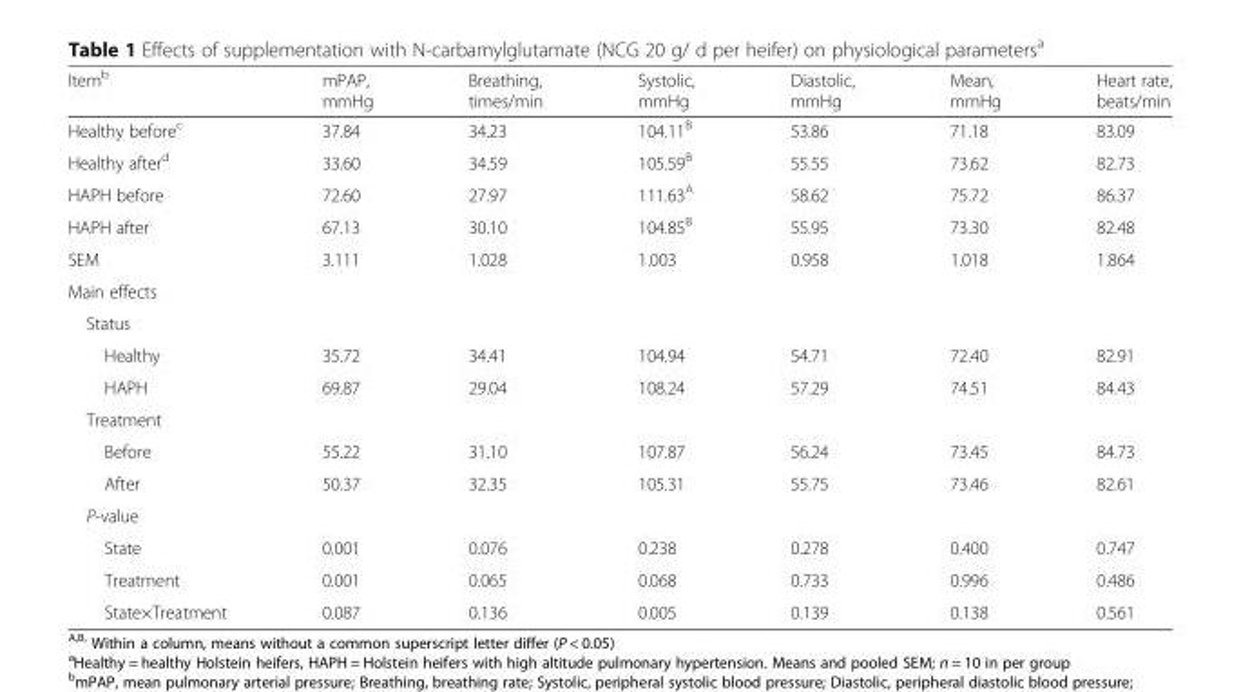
<table><thead><tr><td>Item<sup>b</sup></td><td>mPAP, mmHg</td><td>Breathing, times/min</td><td>Systolic, mmHg</td><td>Diastolic, mmHg</td><td>Mean, mmHg</td><td>Heart rate, beats/min</td></tr></thead><tbody><tr><td>Healthy before<sup>c</sup></td><td>37.84</td><td>34.23</td><td>104.11<sup>B</sup></td><td>53.86</td><td>71.18</td><td>83.09</td></tr><tr><td>Healthy after<sup>d</sup></td><td>33.60</td><td>34.59</td><td>105.59<sup>B</sup></td><td>55.55</td><td>73.62</td><td>82.73</td></tr><tr><td>HAPH before</td><td>72.60</td><td>27.97</td><td>111.63<sup>A</sup></td><td>58.62</td><td>75.72</td><td>86.37</td></tr><tr><td>HAPH after</td><td>67.13</td><td>30.10</td><td>104.85<sup>B</sup></td><td>55.95</td><td>73.30</td><td>82.48</td></tr><tr><td>SEM</td><td>3.111</td><td>1.028</td><td>1.003</td><td>0.958</td><td>1.018</td><td>1.864</td></tr><tr><td colspan="7">Main effects</td></tr><tr><td colspan="7">Status</td></tr><tr><td>Healthy</td><td>35.72</td><td>34.41</td><td>104.94</td><td>54.71</td><td>72.40</td><td>82.91</td></tr><tr><td>HAPH</td><td>69.87</td><td>29.04</td><td>108.24</td><td>57.29</td><td>74.51</td><td>84.43</td></tr><tr><td colspan="7">Treatment</td></tr><tr><td>Before</td><td>55.22</td><td>31.10</td><td>107.87</td><td>56.24</td><td>73.45</td><td>84.73</td></tr><tr><td>After</td><td>50.37</td><td>32.35</td><td>105.31</td><td>55.75</td><td>73.46</td><td>82.61</td></tr><tr><td colspan="7">P-value</td></tr><tr><td>State</td><td>0.001</td><td>0.076</td><td>0.238</td><td>0.278</td><td>0.400</td><td>0.747</td></tr><tr><td>Treatment</td><td>0.001</td><td>0.065</td><td>0.068</td><td>0.733</td><td>0.996</td><td>0.486</td></tr><tr><td>State×Treatment</td><td>0.087</td><td>0.136</td><td>0.005</td><td>0.139</td><td>0.138</td><td>0.561</td></tr></tbody></table>